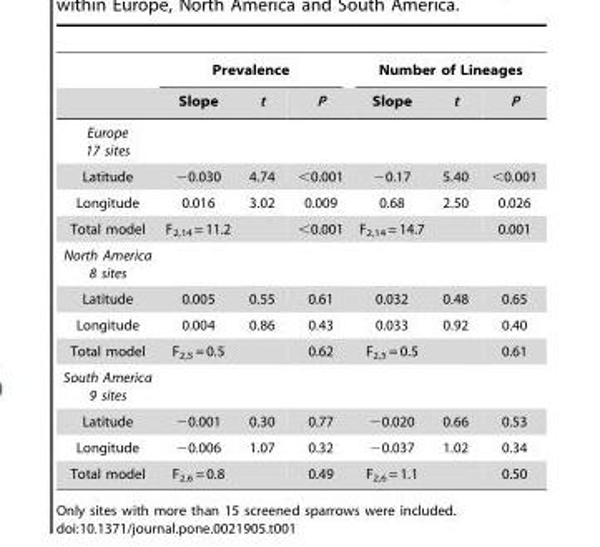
<table><thead><tr><td rowspan="2"></td><td colspan="3">Prevalence</td><td colspan="3">Number of Lineages</td></tr><tr><td>Slope</td><td>t</td><td>P</td><td>Slope</td><td>t</td><td>P</td></tr></thead><tbody><tr><td colspan="7">Europe 17 sites</td></tr><tr><td>Latitude</td><td>−0.030</td><td>4.74</td><td>&lt;0.001</td><td>−0.17</td><td>5.40</td><td>&lt;0.001</td></tr><tr><td>Longitude</td><td>0.016</td><td>3.02</td><td>0.009</td><td>0.68</td><td>2.50</td><td>0.026</td></tr><tr><td>Total model</td><td>F<sub>2,14</sub> = 11.2</td><td></td><td>&lt;0.001</td><td>F<sub>2,14</sub> = 14.7</td><td></td><td>0.001</td></tr><tr><td colspan="7">North America 8 sites</td></tr><tr><td>Latitude</td><td>0.005</td><td>0.55</td><td>0.61</td><td>0.032</td><td>0.48</td><td>0.65</td></tr><tr><td>Longitude</td><td>0.004</td><td>0.86</td><td>0.43</td><td>0.033</td><td>0.92</td><td>0.40</td></tr><tr><td>Total model</td><td>F<sub>2,5</sub> = 0.5</td><td></td><td>0.62</td><td>F<sub>2,5</sub> = 0.5</td><td></td><td>0.61</td></tr><tr><td colspan="7">South America 9 sites</td></tr><tr><td>Latitude</td><td>−0.001</td><td>0.30</td><td>0.77</td><td>−0.020</td><td>0.66</td><td>0.53</td></tr><tr><td>Longitude</td><td>−0.006</td><td>1.07</td><td>0.32</td><td>−0.037</td><td>1.02</td><td>0.34</td></tr><tr><td>Total model</td><td>F<sub>2,6</sub> = 0.8</td><td></td><td>0.49</td><td>F<sub>2,6</sub> = 1.1</td><td></td><td>0.50</td></tr></tbody></table>